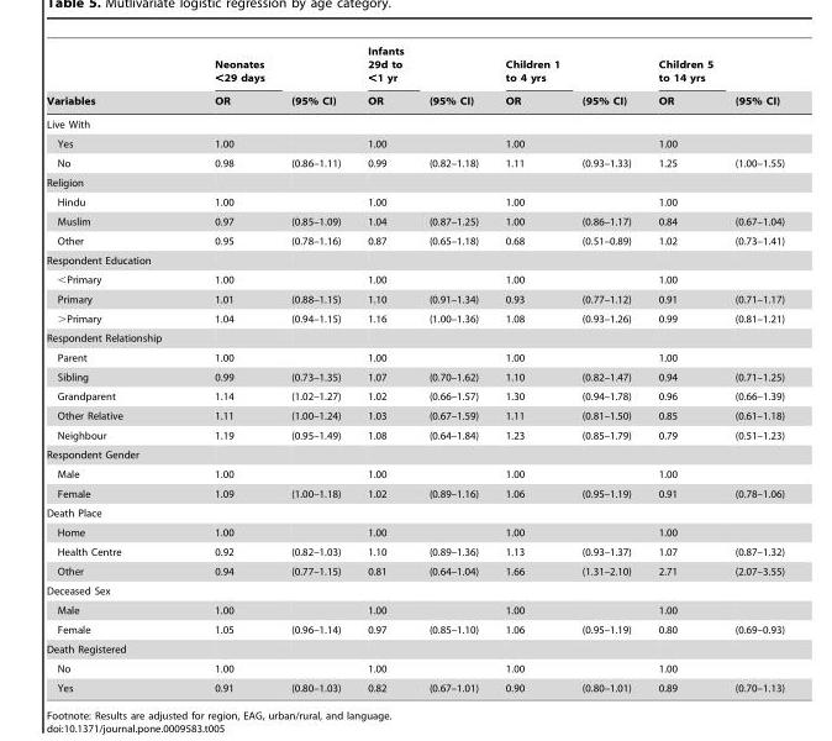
<table><thead><tr><td rowspan="2">Variables</td><td rowspan="2">Neonates &lt;29 days OR</td><td rowspan="2">(95% CI)</td><td rowspan="2">Infants 29d to &lt;1 yr OR</td><td rowspan="2">(95% CI)</td><td rowspan="2">Children 1 to 4 yrs OR</td><td rowspan="2">(95% CI)</td><td rowspan="2">Children 5 to 14 yrs OR</td><td rowspan="2">(95% CI)</td></tr><tr></tr></thead><tbody><tr><td colspan="9">Live With</td></tr><tr><td>Yes</td><td>1.00</td><td></td><td>1.00</td><td></td><td>1.00</td><td></td><td>1.00</td><td></td></tr><tr><td>No</td><td>0.98</td><td>(0.86–1.11)</td><td>0.99</td><td>(0.82–1.18)</td><td>1.11</td><td>(0.93–1.33)</td><td>1.25</td><td>(1.00–1.55)</td></tr><tr><td colspan="9">Religion</td></tr><tr><td>Hindu</td><td>1.00</td><td></td><td>1.00</td><td></td><td>1.00</td><td></td><td>1.00</td><td></td></tr><tr><td>Muslim</td><td>0.97</td><td>(0.85–1.09)</td><td>1.04</td><td>(0.87–1.25)</td><td>1.00</td><td>(0.86–1.17)</td><td>0.84</td><td>(0.67–1.04)</td></tr><tr><td>Other</td><td>0.95</td><td>(0.78–1.16)</td><td>0.87</td><td>(0.65–1.18)</td><td>0.68</td><td>(0.51–0.89)</td><td>1.02</td><td>(0.73–1.41)</td></tr><tr><td colspan="9">Respondent Education</td></tr><tr><td>&lt;Primary</td><td>1.00</td><td></td><td>1.00</td><td></td><td>1.00</td><td></td><td>1.00</td><td></td></tr><tr><td>Primary</td><td>1.01</td><td>(0.88–1.15)</td><td>1.10</td><td>(0.91–1.34)</td><td>0.93</td><td>(0.77–1.12)</td><td>0.91</td><td>(0.71–1.17)</td></tr><tr><td>&gt;Primary</td><td>1.04</td><td>(0.94–1.15)</td><td>1.16</td><td>(1.00–1.36)</td><td>1.08</td><td>(0.93–1.26)</td><td>0.99</td><td>(0.81–1.21)</td></tr><tr><td colspan="9">Respondent Relationship</td></tr><tr><td>Parent</td><td>1.00</td><td></td><td>1.00</td><td></td><td>1.00</td><td></td><td>1.00</td><td></td></tr><tr><td>Sibling</td><td>0.99</td><td>(0.73–1.35)</td><td>1.07</td><td>(0.70–1.62)</td><td>1.10</td><td>(0.82–1.47)</td><td>0.94</td><td>(0.71–1.25)</td></tr><tr><td>Grandparent</td><td>1.14</td><td>(1.02–1.27)</td><td>1.02</td><td>(0.66–1.57)</td><td>1.30</td><td>(0.94–1.78)</td><td>0.96</td><td>(0.66–1.39)</td></tr><tr><td>Other Relative</td><td>1.11</td><td>(1.00–1.24)</td><td>1.03</td><td>(0.67–1.59)</td><td>1.11</td><td>(0.81–1.50)</td><td>0.85</td><td>(0.61–1.18)</td></tr><tr><td>Neighbour</td><td>1.19</td><td>(0.95–1.49)</td><td>1.08</td><td>(0.64–1.84)</td><td>1.23</td><td>(0.85–1.79)</td><td>0.79</td><td>(0.51–1.23)</td></tr><tr><td colspan="9">Respondent Gender</td></tr><tr><td>Male</td><td>1.00</td><td></td><td>1.00</td><td></td><td>1.00</td><td></td><td>1.00</td><td></td></tr><tr><td>Female</td><td>1.09</td><td>(1.00–1.18)</td><td>1.02</td><td>(0.89–1.16)</td><td>1.06</td><td>(0.95–1.19)</td><td>0.91</td><td>(0.78–1.06)</td></tr><tr><td colspan="9">Death Place</td></tr><tr><td>Home</td><td>1.00</td><td></td><td>1.00</td><td></td><td>1.00</td><td></td><td>1.00</td><td></td></tr><tr><td>Health Centre</td><td>0.92</td><td>(0.82–1.03)</td><td>1.10</td><td>(0.89–1.36)</td><td>1.13</td><td>(0.93–1.37)</td><td>1.07</td><td>(0.87–1.32)</td></tr><tr><td>Other</td><td>0.94</td><td>(0.77–1.15)</td><td>0.81</td><td>(0.64–1.04)</td><td>1.66</td><td>(1.31–2.10)</td><td>2.71</td><td>(2.07–3.55)</td></tr><tr><td colspan="9">Deceased Sex</td></tr><tr><td>Male</td><td>1.00</td><td></td><td>1.00</td><td></td><td>1.00</td><td></td><td>1.00</td><td></td></tr><tr><td>Female</td><td>1.05</td><td>(0.96–1.14)</td><td>0.97</td><td>(0.85–1.10)</td><td>1.06</td><td>(0.95–1.19)</td><td>0.80</td><td>(0.69–0.93)</td></tr><tr><td colspan="9">Death Registered</td></tr><tr><td>No</td><td>1.00</td><td></td><td>1.00</td><td></td><td>1.00</td><td></td><td>1.00</td><td></td></tr><tr><td>Yes</td><td>0.91</td><td>(0.80–1.03)</td><td>0.82</td><td>(0.67–1.01)</td><td>0.90</td><td>(0.80–1.01)</td><td>0.89</td><td>(0.70–1.13)</td></tr></tbody></table>